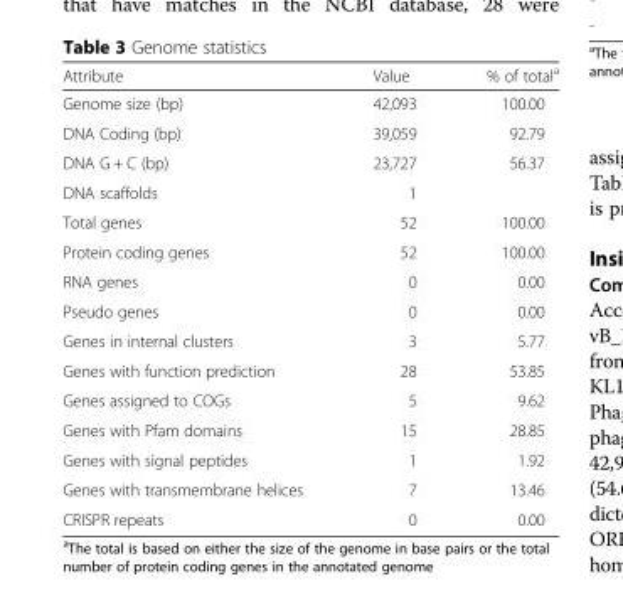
<table><thead><tr><td>Attribute</td><td>Value</td><td>% of total<sup>a</sup></td></tr></thead><tbody><tr><td>Genome size (bp)</td><td>42,093</td><td>100.00</td></tr><tr><td>DNA Coding (bp)</td><td>39,059</td><td>92.79</td></tr><tr><td>DNA G + C (bp)</td><td>23,727</td><td>56.37</td></tr><tr><td>DNA scaffolds</td><td>1</td><td></td></tr><tr><td>Total genes</td><td>52</td><td>100.00</td></tr><tr><td>Protein coding genes</td><td>52</td><td>100.00</td></tr><tr><td>RNA genes</td><td>0</td><td>0.00</td></tr><tr><td>Pseudo genes</td><td>0</td><td>0.00</td></tr><tr><td>Genes in internal clusters</td><td>3</td><td>5.77</td></tr><tr><td>Genes with function prediction</td><td>28</td><td>53.85</td></tr><tr><td>Genes assigned to COGs</td><td>5</td><td>9.62</td></tr><tr><td>Genes with Pfam domains</td><td>15</td><td>28.85</td></tr><tr><td>Genes with signal peptides</td><td>1</td><td>1.92</td></tr><tr><td>Genes with transmembrane helices</td><td>7</td><td>13.46</td></tr><tr><td>CRISPR repeats</td><td>0</td><td>0.00</td></tr></tbody></table>